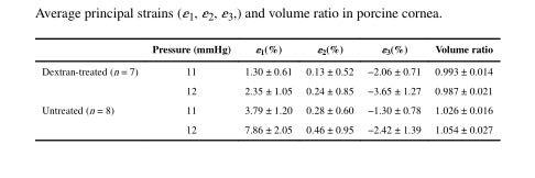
<table><thead><tr><td></td><td>Pressure (mmHg)</td><td>ε<sub>1</sub>(%)</td><td>ε<sub>2</sub>(%)</td><td>ε<sub>3</sub>(%)</td><td>Volume ratio</td></tr></thead><tbody><tr><td rowspan="2">Dextran-treated (n = 7)</td><td>11</td><td>1.30 ± 0.61</td><td>0.13 ± 0.52</td><td>−2.06 ± 0.71</td><td>0.993 ± 0.014</td></tr><tr><td>12</td><td>2.35 ± 1.05</td><td>0.24 ± 0.85</td><td>−3.65 ± 1.27</td><td>0.987 ± 0.021</td></tr><tr><td rowspan="2">Untreated (n = 8)</td><td>11</td><td>3.79 ± 1.20</td><td>0.28 ± 0.60</td><td>−1.30 ± 0.78</td><td>1.026 ± 0.016</td></tr><tr><td>12</td><td>7.86 ± 2.05</td><td>0.46 ± 0.95</td><td>−2.42 ± 1.39</td><td>1.054 ± 0.027</td></tr></tbody></table>